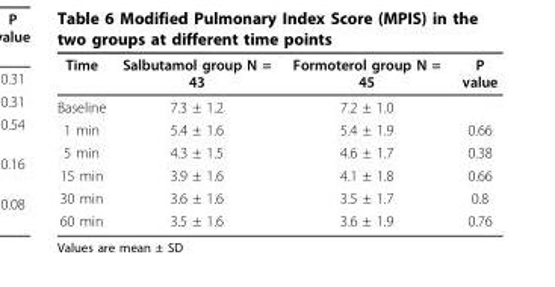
<table><thead><tr><td>Time</td><td>Salbutamol group N = 43</td><td>Formoterol group N = 45</td><td>P value</td></tr></thead><tbody><tr><td>Baseline</td><td>7.3 ± 1.2</td><td>7.2 ± 1.0</td><td></td></tr><tr><td>1 min</td><td>5.4 ± 1.6</td><td>5.4 ± 1.9</td><td>0.66</td></tr><tr><td>5 min</td><td>4.3 ± 1.5</td><td>4.6 ± 1.7</td><td>0.38</td></tr><tr><td>15 min</td><td>3.9 ± 1.6</td><td>4.1 ± 1.8</td><td>0.66</td></tr><tr><td>30 min</td><td>3.6 ± 1.6</td><td>3.5 ± 1.7</td><td>0.8</td></tr><tr><td>60 min</td><td>3.5 ± 1.6</td><td>3.6 ± 1.9</td><td>0.76</td></tr></tbody></table>